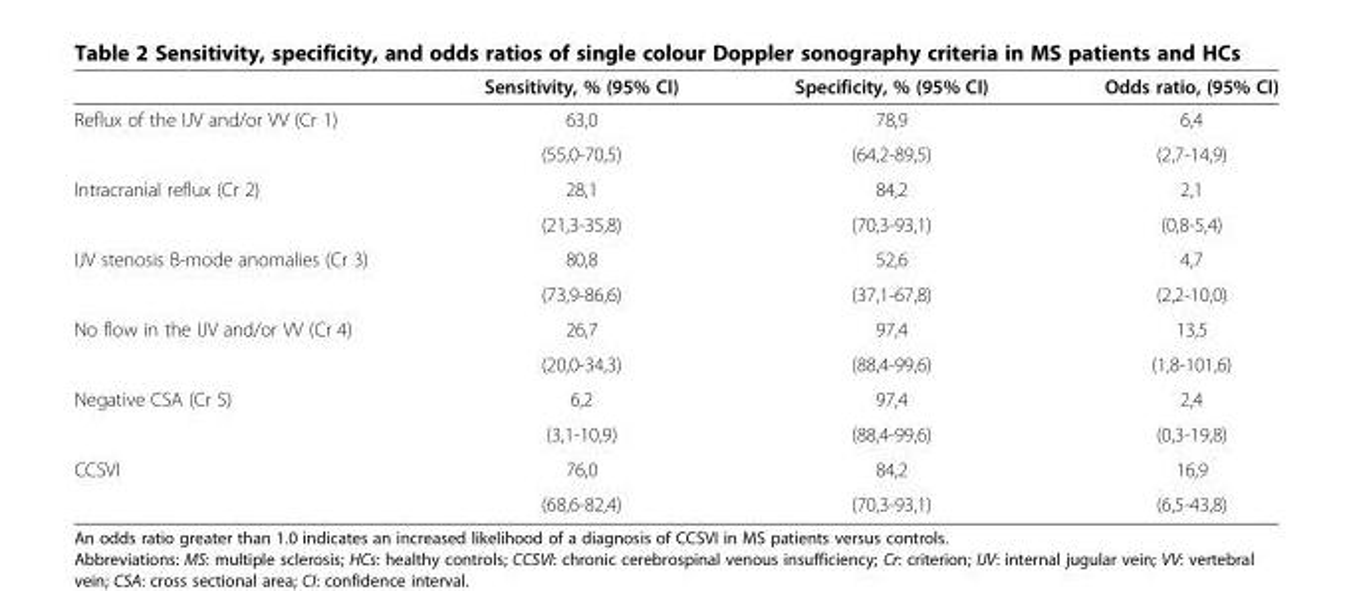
<table><thead><tr><td></td><td>Sensitivity, % (95% CI)</td><td>Specificity, % (95% CI)</td><td>Odds ratio, (95% CI)</td></tr></thead><tbody><tr><td rowspan="2">Reflux of the IJV and/or VV (Cr 1)</td><td>63,0</td><td>78,9</td><td>6,4</td></tr><tr><td>(55,0-70,5)</td><td>(64,2-89,5)</td><td>(2,7-14,9)</td></tr><tr><td rowspan="2">Intracranial reflux (Cr 2)</td><td>28,1</td><td>84,2</td><td>2,1</td></tr><tr><td>(21,3-35,8)</td><td>(70,3-93,1)</td><td>(0,8-5,4)</td></tr><tr><td rowspan="2">IJV stenosis B-mode anomalies (Cr 3)</td><td>80,8</td><td>52,6</td><td>4,7</td></tr><tr><td>(73,9-86,6)</td><td>(37,1-67,8)</td><td>(2,2-10,0)</td></tr><tr><td rowspan="2">No flow in the IJV and/or VV (Cr 4)</td><td>26,7</td><td>97,4</td><td>13,5</td></tr><tr><td>(20,0-34,3)</td><td>(88,4-99,6)</td><td>(1,8-101,6)</td></tr><tr><td rowspan="2">Negative CSA (Cr 5)</td><td>6,2</td><td>97,4</td><td>2,4</td></tr><tr><td>(3,1-10,9)</td><td>(88,4-99,6)</td><td>(0,3-19,8)</td></tr><tr><td rowspan="2">CCSVI</td><td>76,0</td><td>84,2</td><td>16,9</td></tr><tr><td>(68,6-82,4)</td><td>(70,3-93,1)</td><td>(6,5-43,8)</td></tr></tbody></table>